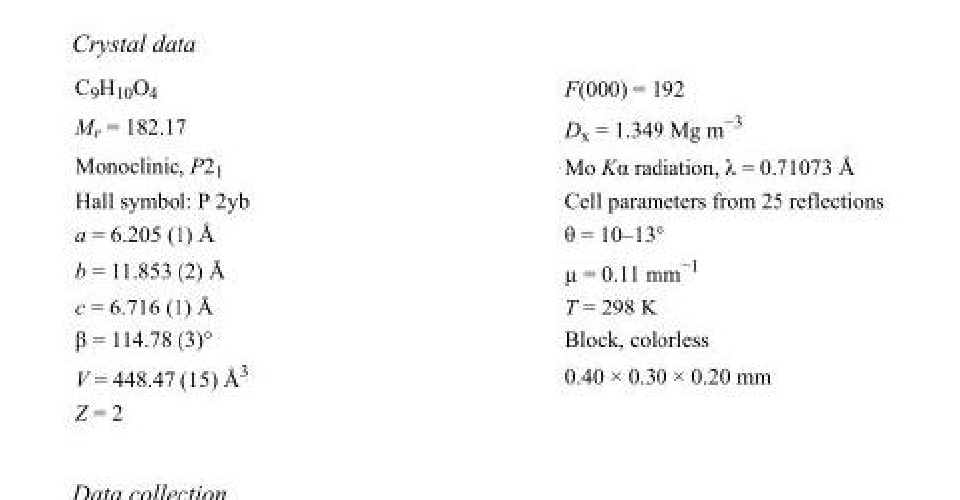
<table><tbody><tr><td>C<sub>9</sub>H<sub>10</sub>O<sub>4</sub></td><td>F(000) = 192</td></tr><tr><td>M<sub>r</sub> = 182.17</td><td>D<sub>x</sub> = 1.349 Mg m<sup>−3</sup></td></tr><tr><td>Monoclinic, P2<sub>1</sub></td><td>Mo Kα radiation, λ = 0.71073 Å</td></tr><tr><td>Hall symbol: P 2yb</td><td>Cell parameters from 25 reflections</td></tr><tr><td>a = 6.205 (1) Å</td><td>θ = 10–13°</td></tr><tr><td>b = 11.853 (2) Å</td><td>µ = 0.11 mm<sup>−1</sup></td></tr><tr><td>c = 6.716 (1) Å</td><td>T = 298 K</td></tr><tr><td>β = 114.78 (3)°</td><td>Block, colorless</td></tr><tr><td>V = 448.47 (15) Å<sup>3</sup></td><td>0.40 × 0.30 × 0.20 mm</td></tr><tr><td>Z = 2</td><td></td></tr></tbody></table>